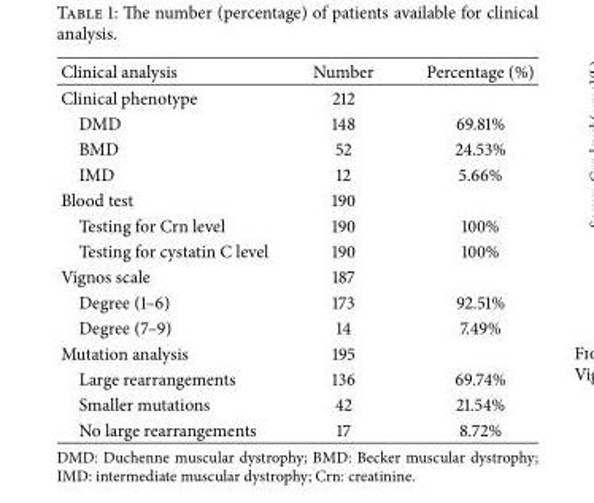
<table><thead><tr><td>Clinical analysis</td><td>Number</td><td>Percentage (%)</td></tr></thead><tbody><tr><td>Clinical phenotype</td><td>212</td><td></td></tr><tr><td>DMD</td><td>148</td><td>69.81%</td></tr><tr><td>BMD</td><td>52</td><td>24.53%</td></tr><tr><td>IMD</td><td>12</td><td>5.66%</td></tr><tr><td>Blood test</td><td>190</td><td></td></tr><tr><td>Testing for Crn level</td><td>190</td><td>100%</td></tr><tr><td>Testing for cystatin C level</td><td>190</td><td>100%</td></tr><tr><td>Vignos scale</td><td>187</td><td></td></tr><tr><td>Degree (1–6)</td><td>173</td><td>92.51%</td></tr><tr><td>Degree (7–9)</td><td>14</td><td>7.49%</td></tr><tr><td>Mutation analysis</td><td>195</td><td></td></tr><tr><td>Large rearrangements</td><td>136</td><td>69.74%</td></tr><tr><td>Smaller mutations</td><td>42</td><td>21.54%</td></tr><tr><td>No large rearrangements</td><td>17</td><td>8.72%</td></tr></tbody></table>